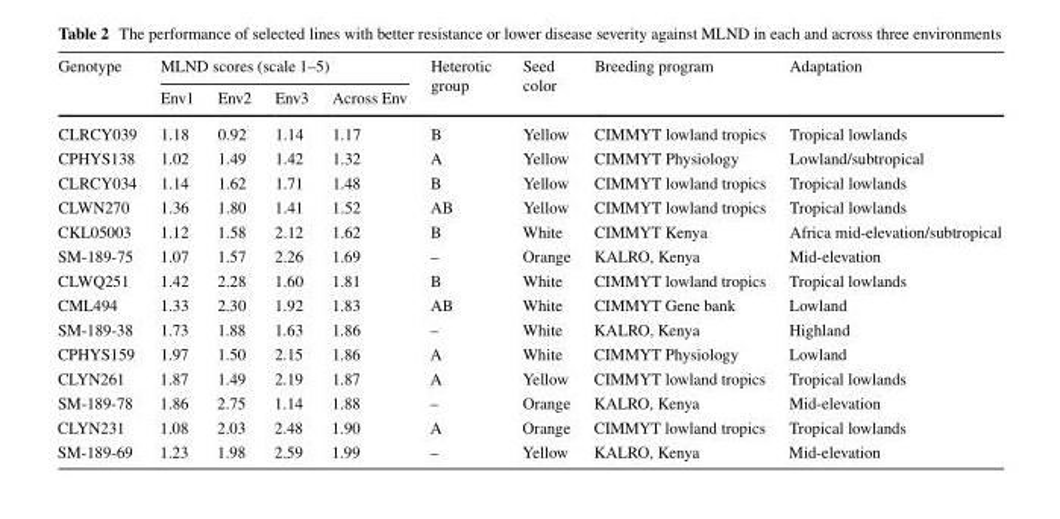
<table><thead><tr><td rowspan="2">Genotype</td><td colspan="4">MLND scores (scale 1–5)</td><td rowspan="2">Heterotic group</td><td rowspan="2">Seed color</td><td rowspan="2">Breeding program</td><td rowspan="2">Adaptation</td></tr><tr><td>Env1</td><td>Env2</td><td>Env3</td><td>Across Env</td></tr></thead><tbody><tr><td>CLRCY039</td><td>1.18</td><td>0.92</td><td>1.14</td><td>1.17</td><td>B</td><td>Yellow</td><td>CIMMYT lowland tropics</td><td>Tropical lowlands</td></tr><tr><td>CPHYS138</td><td>1.02</td><td>1.49</td><td>1.42</td><td>1.32</td><td>A</td><td>Yellow</td><td>CIMMYT Physiology</td><td>Lowland/subtropical</td></tr><tr><td>CLRCY034</td><td>1.14</td><td>1.62</td><td>1.71</td><td>1.48</td><td>B</td><td>Yellow</td><td>CIMMYT lowland tropics</td><td>Tropical lowlands</td></tr><tr><td>CLWN270</td><td>1.36</td><td>1.80</td><td>1.41</td><td>1.52</td><td>AB</td><td>Yellow</td><td>CIMMYT lowland tropics</td><td>Tropical lowlands</td></tr><tr><td>CKL05003</td><td>1.12</td><td>1.58</td><td>2.12</td><td>1.62</td><td>B</td><td>White</td><td>CIMMYT Kenya</td><td>Africa mid-elevation/subtropical</td></tr><tr><td>SM-189-75</td><td>1.07</td><td>1.57</td><td>2.26</td><td>1.69</td><td>–</td><td>Orange</td><td>KALRO, Kenya</td><td>Mid-elevation</td></tr><tr><td>CLWQ251</td><td>1.42</td><td>2.28</td><td>1.60</td><td>1.81</td><td>B</td><td>White</td><td>CIMMYT lowland tropics</td><td>Tropical lowlands</td></tr><tr><td>CML494</td><td>1.33</td><td>2.30</td><td>1.92</td><td>1.83</td><td>AB</td><td>White</td><td>CIMMYT Gene bank</td><td>Lowland</td></tr><tr><td>SM-189-38</td><td>1.73</td><td>1.88</td><td>1.63</td><td>1.86</td><td>–</td><td>White</td><td>KALRO, Kenya</td><td>Highland</td></tr><tr><td>CPHYS159</td><td>1.97</td><td>1.50</td><td>2.15</td><td>1.86</td><td>A</td><td>White</td><td>CIMMYT Physiology</td><td>Lowland</td></tr><tr><td>CLYN261</td><td>1.87</td><td>1.49</td><td>2.19</td><td>1.87</td><td>A</td><td>Yellow</td><td>CIMMYT lowland tropics</td><td>Tropical lowlands</td></tr><tr><td>SM-189-78</td><td>1.86</td><td>2.75</td><td>1.14</td><td>1.88</td><td>–</td><td>Orange</td><td>KALRO, Kenya</td><td>Mid-elevation</td></tr><tr><td>CLYN231</td><td>1.08</td><td>2.03</td><td>2.48</td><td>1.90</td><td>A</td><td>Orange</td><td>CIMMYT lowland tropics</td><td>Tropical lowlands</td></tr><tr><td>SM-189-69</td><td>1.23</td><td>1.98</td><td>2.59</td><td>1.99</td><td>–</td><td>Yellow</td><td>KALRO, Kenya</td><td>Mid-elevation</td></tr></tbody></table>